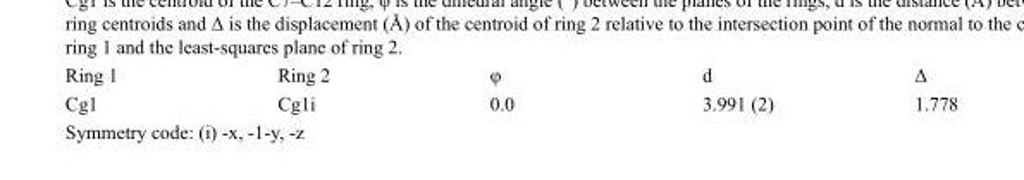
<table><tbody><tr><td>Ring 1</td><td>Ring 2</td><td>φ</td><td>d</td><td>Δ</td></tr><tr><td>Cg1</td><td>Cg1i</td><td>0.0</td><td>3.991 (2)</td><td>1.778</td></tr></tbody></table>